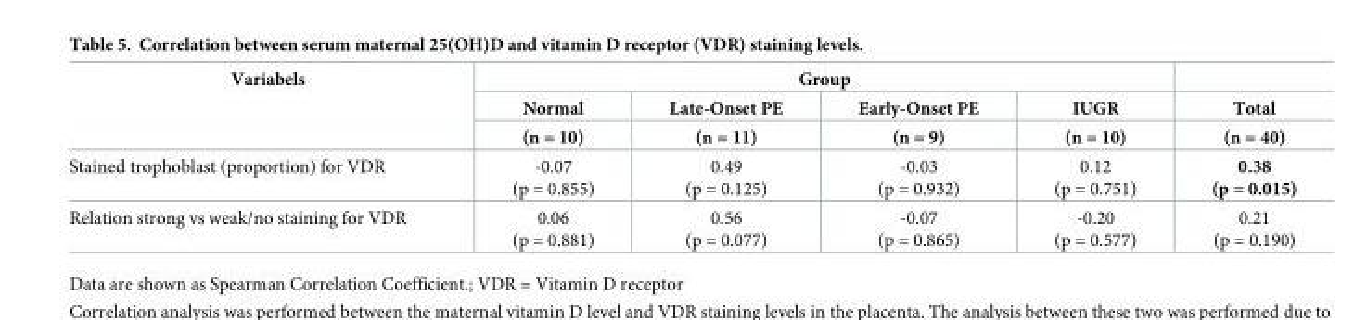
<table><thead><tr><td rowspan="3">Variabels</td><td colspan="4">Group</td><td rowspan="3">Total (n = 40)</td></tr><tr><td rowspan="2">Normal (n = 10)</td><td rowspan="2">Late-Onset PE (n = 11)</td><td rowspan="2">Early-Onset PE (n = 9)</td><td rowspan="2">IUGR (n = 10)</td></tr><tr></tr></thead><tbody><tr><td>Stained trophoblast (proportion) for VDR</td><td>-0.07 (p = 0.855)</td><td>0.49 (p = 0.125)</td><td>-0.03 (p = 0.932)</td><td>0.12 (p = 0.751)</td><td>0.38 (p = 0.015)</td></tr><tr><td>Relation strong vs weak/no staining for VDR</td><td>0.06 (p = 0.881)</td><td>0.56 (p = 0.077)</td><td>-0.07 (p = 0.865)</td><td>-0.20 (p = 0.577)</td><td>0.21 (p = 0.190)</td></tr></tbody></table>